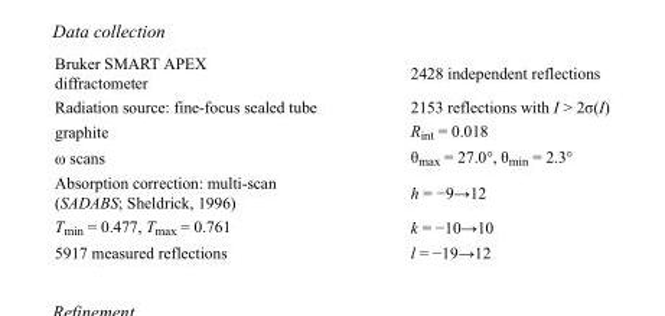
<table><tbody><tr><td>Bruker SMART APEX diffractometer</td><td>2428 independent reflections</td></tr><tr><td>Radiation source: fine-focus sealed tube</td><td>2153 reflections with I &gt; 2σ(I)</td></tr><tr><td>graphite</td><td>R<sub>int</sub> = 0.018</td></tr><tr><td>ω scans</td><td>θ<sub>max</sub> = 27.0°, θ<sub>min</sub> = 2.3°</td></tr><tr><td>Absorption correction: multi-scan (SADABS; Sheldrick, 1996)</td><td>h = −9→12</td></tr><tr><td>T<sub>min</sub> = 0.477, T<sub>max</sub> = 0.761</td><td>k = −10→10</td></tr><tr><td>5917 measured reflections</td><td>l = −19→12</td></tr></tbody></table>